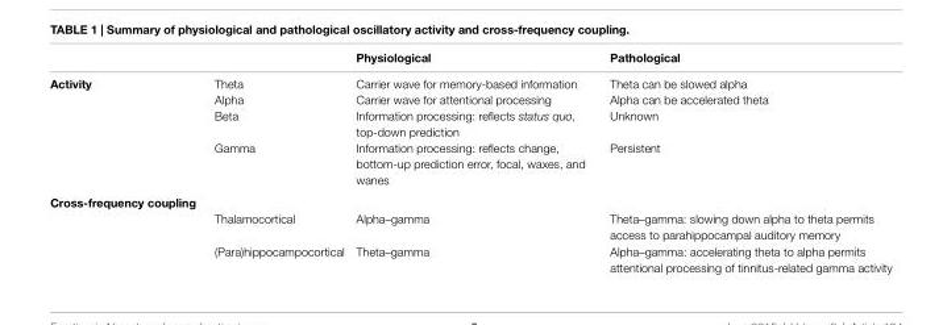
<table><thead><tr><td></td><td></td><td>Physiological</td><td>Pathological</td></tr></thead><tbody><tr><td rowspan="4">Activity</td><td>Theta</td><td>Carrier wave for memory-based information</td><td>Theta can be slowed alpha</td></tr><tr><td>Alpha</td><td>Carrier wave for attentional processing</td><td>Alpha can be accelerated theta</td></tr><tr><td>Beta</td><td>Information processing: reflects status quo, top-down prediction</td><td>Unknown</td></tr><tr><td>Gamma</td><td>Information processing: reflects change, bottom-up prediction error, focal, waxes, and wanes</td><td>Persistent</td></tr><tr><td colspan="4">Cross-frequency coupling</td></tr><tr><td></td><td>Thalamocortical</td><td>Alpha–gamma</td><td>Theta–gamma: slowing down alpha to theta permits access to parahippocampal auditory memory</td></tr><tr><td></td><td>(Para)hippocampocortical</td><td>Theta–gamma</td><td>Alpha–gamma: accelerating theta to alpha permits attentional processing of tinnitus-related gamma activity</td></tr></tbody></table>